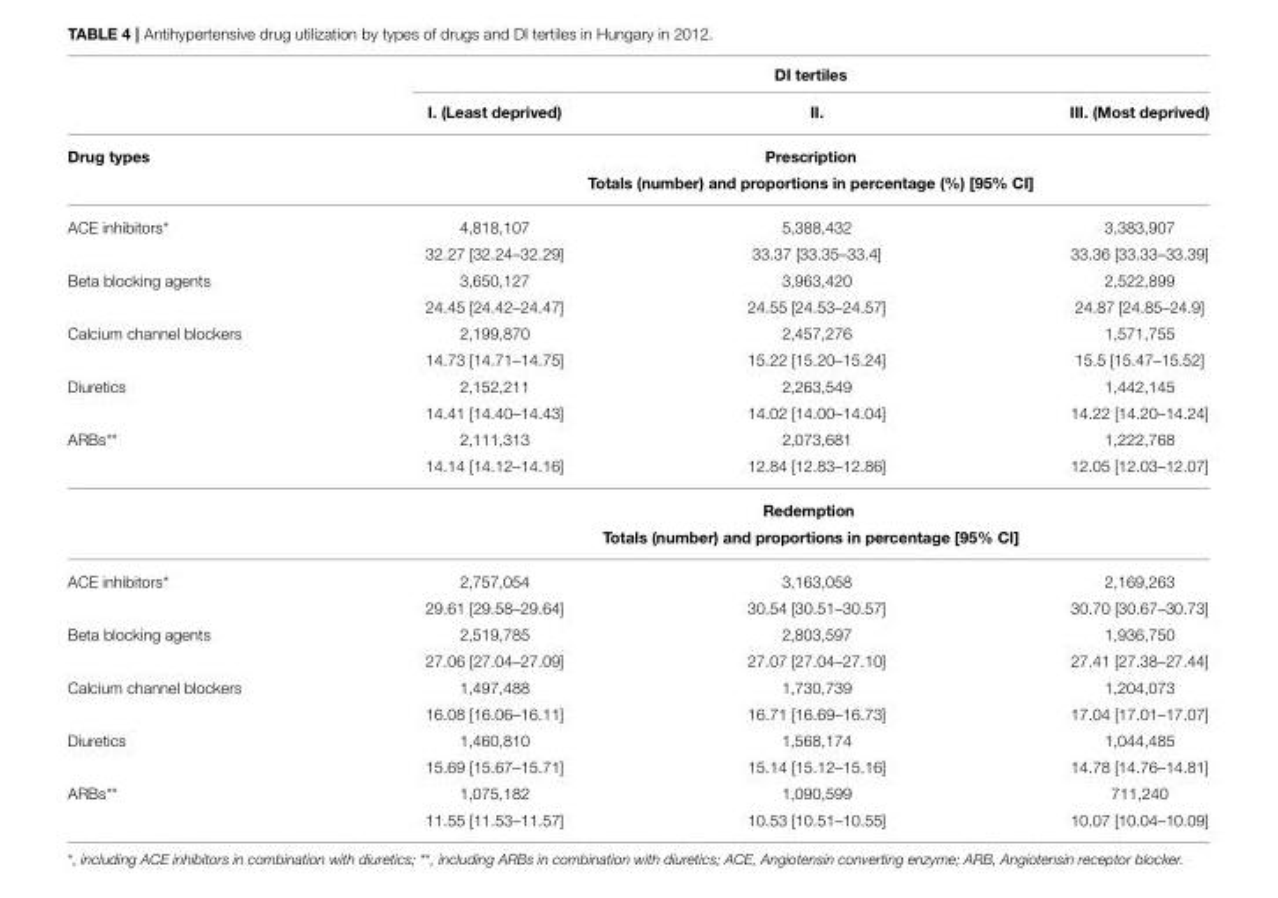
<table><thead><tr><td rowspan="2"></td><td colspan="3">DI tertiles</td></tr><tr><td>I. (Least deprived)</td><td>II.</td><td>III. (Most deprived)</td></tr></thead><tbody><tr><td rowspan="2">Drug types</td><td colspan="3">Prescription</td></tr><tr><td colspan="3">Totals (number) and proportions in percentage (%) [95% CI]</td></tr><tr><td rowspan="2">ACE inhibitors*</td><td>4,818,107</td><td>5,388,432</td><td>3,383,907</td></tr><tr><td>32.27 [32.24–32.29]</td><td>33.37 [33.35–33.4]</td><td>33.36 [33.33–33.39]</td></tr><tr><td rowspan="2">Beta blocking agents</td><td>3,650,127</td><td>3,963,420</td><td>2,522,899</td></tr><tr><td>24.45 [24.42–24.47]</td><td>24.55 [24.53–24.57]</td><td>24.87 [24.85–24.9]</td></tr><tr><td rowspan="2">Calcium channel blockers</td><td>2,199,870</td><td>2,457,276</td><td>1,571,755</td></tr><tr><td>14.73 [14.71–14.75]</td><td>15.22 [15.20–15.24]</td><td>15.5 [15.47–15.52]</td></tr><tr><td rowspan="2">Diuretics</td><td>2,152,211</td><td>2,263,549</td><td>1,442,145</td></tr><tr><td>14.41 [14.40–14.43]</td><td>14.02 [14.00–14.04]</td><td>14.22 [14.20–14.24]</td></tr><tr><td rowspan="4">ARBs**</td><td>2,111,313</td><td>2,073,681</td><td>1,222,768</td></tr><tr><td>14.14 [14.12–14.16]</td><td>12.84 [12.83–12.86]</td><td>12.05 [12.03–12.07]</td></tr><tr><td colspan="3">Redemption</td></tr><tr><td colspan="3">Totals (number) and proportions in percentage [95% CI]</td></tr><tr><td rowspan="2">ACE inhibitors*</td><td>2,757,054</td><td>3,163,058</td><td>2,169,263</td></tr><tr><td>29.61 [29.58–29.64]</td><td>30.54 [30.51–30.57]</td><td>30.70 [30.67–30.73]</td></tr><tr><td rowspan="2">Beta blocking agents</td><td>2,519,785</td><td>2,803,597</td><td>1,936,750</td></tr><tr><td>27.06 [27.04–27.09]</td><td>27.07 [27.04–27.10]</td><td>27.41 [27.38–27.44]</td></tr><tr><td rowspan="2">Calcium channel blockers</td><td>1,497,488</td><td>1,730,739</td><td>1,204,073</td></tr><tr><td>16.08 [16.06–16.11]</td><td>16.71 [16.69–16.73]</td><td>17.04 [17.01–17.07]</td></tr><tr><td rowspan="2">Diuretics</td><td>1,460,810</td><td>1,568,174</td><td>1,044,485</td></tr><tr><td>15.69 [15.67–15.71]</td><td>15.14 [15.12–15.16]</td><td>14.78 [14.76–14.81]</td></tr><tr><td rowspan="2">ARBs**</td><td>1,075,182</td><td>1,090,599</td><td>711,240</td></tr><tr><td>11.55 [11.53–11.57]</td><td>10.53 [10.51–10.55]</td><td>10.07 [10.04–10.09]</td></tr></tbody></table>